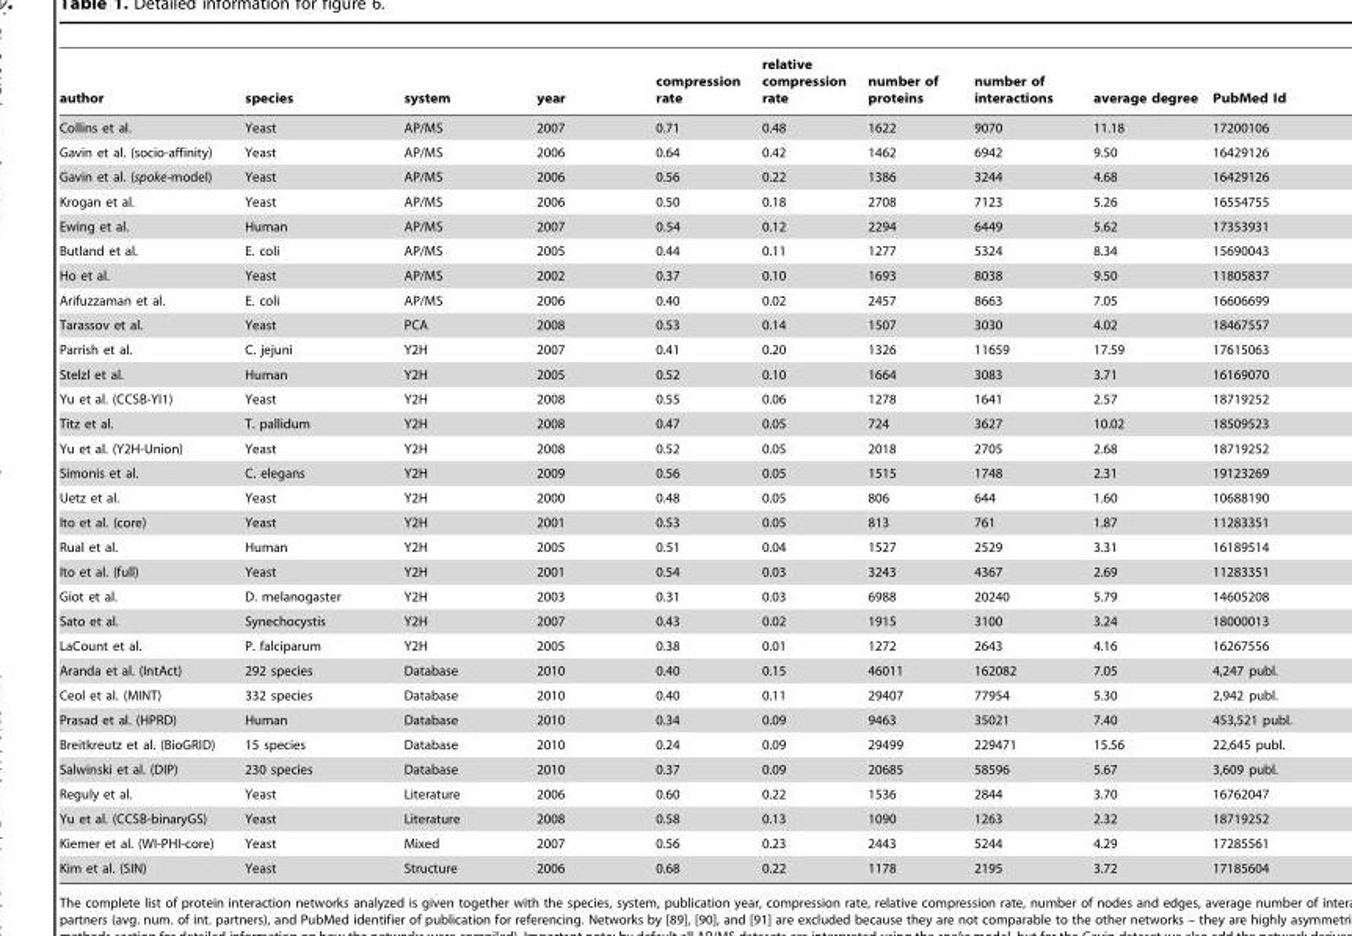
<table><thead><tr><td>author</td><td>species</td><td>system</td><td>year</td><td>compression rate</td><td>relative compression rate</td><td>number of proteins</td><td>number of interactions</td><td>average degree</td><td>PubMed Id</td></tr></thead><tbody><tr><td>Collins et al.</td><td>Yeast</td><td>AP/MS</td><td>2007</td><td>0.71</td><td>0.48</td><td>1622</td><td>9070</td><td>11.18</td><td>17200106</td></tr><tr><td>Gavin et al. (socio-affinity)</td><td>Yeast</td><td>AP/MS</td><td>2006</td><td>0.64</td><td>0.42</td><td>1462</td><td>6942</td><td>9.50</td><td>16429126</td></tr><tr><td>Gavin et al. (spoke-model)</td><td>Yeast</td><td>AP/MS</td><td>2006</td><td>0.56</td><td>0.22</td><td>1386</td><td>3244</td><td>4.68</td><td>16429126</td></tr><tr><td>Krogan et al.</td><td>Yeast</td><td>AP/MS</td><td>2006</td><td>0.50</td><td>0.18</td><td>2708</td><td>7123</td><td>5.26</td><td>16554755</td></tr><tr><td>Ewing et al.</td><td>Human</td><td>AP/MS</td><td>2007</td><td>0.54</td><td>0.12</td><td>2294</td><td>6449</td><td>5.62</td><td>17353931</td></tr><tr><td>Butland et al.</td><td>E. coli</td><td>AP/MS</td><td>2005</td><td>0.44</td><td>0.11</td><td>1277</td><td>5324</td><td>8.34</td><td>15690043</td></tr><tr><td>Ho et al.</td><td>Yeast</td><td>AP/MS</td><td>2002</td><td>0.37</td><td>0.10</td><td>1693</td><td>8038</td><td>9.50</td><td>11805837</td></tr><tr><td>Arifuzzaman et al.</td><td>E. coli</td><td>AP/MS</td><td>2006</td><td>0.40</td><td>0.02</td><td>2457</td><td>8663</td><td>7.05</td><td>16606699</td></tr><tr><td>Tarassov et al.</td><td>Yeast</td><td>PCA</td><td>2008</td><td>0.53</td><td>0.14</td><td>1507</td><td>3030</td><td>4.02</td><td>18467557</td></tr><tr><td>Parrish et al.</td><td>C. jejuni</td><td>Y2H</td><td>2007</td><td>0.41</td><td>0.20</td><td>1326</td><td>11659</td><td>17.59</td><td>17615063</td></tr><tr><td>Stelzl et al.</td><td>Human</td><td>Y2H</td><td>2005</td><td>0.52</td><td>0.10</td><td>1664</td><td>3083</td><td>3.71</td><td>16169070</td></tr><tr><td>Yu et al. (CCSB-YI1)</td><td>Yeast</td><td>Y2H</td><td>2008</td><td>0.55</td><td>0.06</td><td>1278</td><td>1641</td><td>2.57</td><td>18719252</td></tr><tr><td>Titz et al.</td><td>T. pallidum</td><td>Y2H</td><td>2008</td><td>0.47</td><td>0.05</td><td>724</td><td>3627</td><td>10.02</td><td>18509523</td></tr><tr><td>Yu et al. (Y2H-Union)</td><td>Yeast</td><td>Y2H</td><td>2008</td><td>0.52</td><td>0.05</td><td>2018</td><td>2705</td><td>2.68</td><td>18719252</td></tr><tr><td>Simonis et al.</td><td>C. elegans</td><td>Y2H</td><td>2009</td><td>0.56</td><td>0.05</td><td>1515</td><td>1748</td><td>2.31</td><td>19123269</td></tr><tr><td>Uetz et al.</td><td>Yeast</td><td>Y2H</td><td>2000</td><td>0.48</td><td>0.05</td><td>806</td><td>644</td><td>1.60</td><td>10688190</td></tr><tr><td>Ito et al. (core)</td><td>Yeast</td><td>Y2H</td><td>2001</td><td>0.53</td><td>0.05</td><td>813</td><td>761</td><td>1.87</td><td>11283351</td></tr><tr><td>Rual et al.</td><td>Human</td><td>Y2H</td><td>2005</td><td>0.51</td><td>0.04</td><td>1527</td><td>2529</td><td>3.31</td><td>16189514</td></tr><tr><td>Ito et al. (full)</td><td>Yeast</td><td>Y2H</td><td>2001</td><td>0.54</td><td>0.03</td><td>3243</td><td>4367</td><td>2.69</td><td>11283351</td></tr><tr><td>Giot et al.</td><td>D. melanogaster</td><td>Y2H</td><td>2003</td><td>0.31</td><td>0.03</td><td>6988</td><td>20240</td><td>5.79</td><td>14605208</td></tr><tr><td>Sato et al.</td><td>Synechocystis</td><td>Y2H</td><td>2007</td><td>0.43</td><td>0.02</td><td>1915</td><td>3100</td><td>3.24</td><td>18000013</td></tr><tr><td>LaCount et al.</td><td>P. falciparum</td><td>Y2H</td><td>2005</td><td>0.38</td><td>0.01</td><td>1272</td><td>2643</td><td>4.16</td><td>16267556</td></tr><tr><td>Aranda et al. (IntAct)</td><td>292 species</td><td>Database</td><td>2010</td><td>0.40</td><td>0.15</td><td>46011</td><td>162082</td><td>7.05</td><td>4,247 publ.</td></tr><tr><td>Ceol et al. (MINT)</td><td>332 species</td><td>Database</td><td>2010</td><td>0.40</td><td>0.11</td><td>29407</td><td>77954</td><td>5.30</td><td>2,942 publ.</td></tr><tr><td>Prasad et al. (HPRD)</td><td>Human</td><td>Database</td><td>2010</td><td>0.34</td><td>0.09</td><td>9463</td><td>35021</td><td>7.40</td><td>453,521 publ.</td></tr><tr><td>Breitkreutz et al. (BioGRID)</td><td>15 species</td><td>Database</td><td>2010</td><td>0.24</td><td>0.09</td><td>29499</td><td>229471</td><td>15.56</td><td>22,645 publ.</td></tr><tr><td>Salwinski et al. (DIP)</td><td>230 species</td><td>Database</td><td>2010</td><td>0.37</td><td>0.09</td><td>20685</td><td>58596</td><td>5.67</td><td>3,609 publ.</td></tr><tr><td>Reguly et al.</td><td>Yeast</td><td>Literature</td><td>2006</td><td>0.60</td><td>0.22</td><td>1536</td><td>2844</td><td>3.70</td><td>16762047</td></tr><tr><td>Yu et al. (CCSB-binaryGS)</td><td>Yeast</td><td>Literature</td><td>2008</td><td>0.58</td><td>0.13</td><td>1090</td><td>1263</td><td>2.32</td><td>18719252</td></tr><tr><td>Kiemer et al. (WI-PHI-core)</td><td>Yeast</td><td>Mixed</td><td>2007</td><td>0.56</td><td>0.23</td><td>2443</td><td>5244</td><td>4.29</td><td>17285561</td></tr><tr><td>Kim et al. (SIN)</td><td>Yeast</td><td>Structure</td><td>2006</td><td>0.68</td><td>0.22</td><td>1178</td><td>2195</td><td>3.72</td><td>17185604</td></tr></tbody></table>